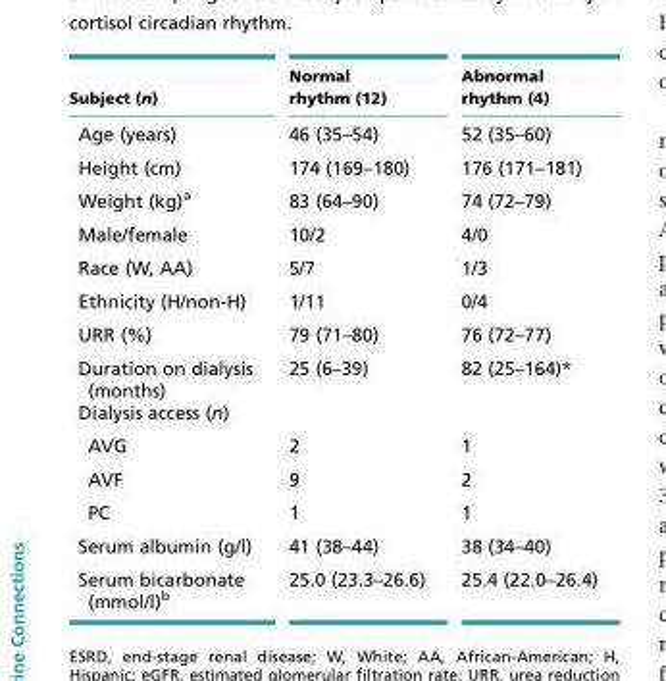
<table><thead><tr><td>Subject (n)</td><td>Normal rhythm (12)</td><td>Abnormal rhythm (4)</td></tr></thead><tbody><tr><td>Age (years)</td><td>46 (35–54)</td><td>52 (35–60)</td></tr><tr><td>Height (cm)</td><td>174 (169–180)</td><td>176 (171–181)</td></tr><tr><td>Weight (kg)<sup>a</sup></td><td>83 (64–90)</td><td>74 (72–79)</td></tr><tr><td>Male/female</td><td>10/2</td><td>4/0</td></tr><tr><td>Race (W, AA)</td><td>5/7</td><td>1/3</td></tr><tr><td>Ethnicity (H/non-H)</td><td>1/11</td><td>0/4</td></tr><tr><td>URR (%)</td><td>79 (71–80)</td><td>76 (72–77)</td></tr><tr><td>Duration on dialysis (months)</td><td>25 (6–39)</td><td>82 (25–164)*</td></tr><tr><td colspan="3">Dialysis access (n)</td></tr><tr><td>AVG</td><td>2</td><td>1</td></tr><tr><td>AVF</td><td>9</td><td>2</td></tr><tr><td>PC</td><td>1</td><td>1</td></tr><tr><td>Serum albumin (g/l)</td><td>41 (38–44)</td><td>38 (34–40)</td></tr><tr><td>Serum bicarbonate (mmol/l)<sup>b</sup></td><td>25.0 (23.3–26.6)</td><td>25.4 (22.0–26.4)</td></tr></tbody></table>